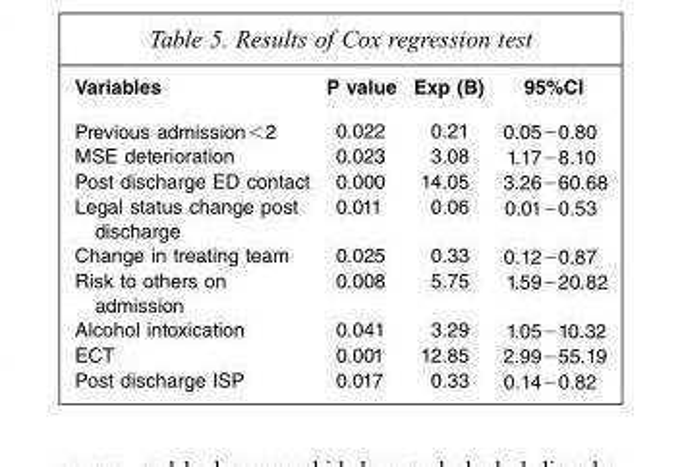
<table><thead><tr><td>Variables</td><td>P value</td><td>Exp (B)</td><td>95%CI</td></tr></thead><tbody><tr><td>Previous admission &lt; 2</td><td>0.022</td><td>0.21</td><td>0.05–0.80</td></tr><tr><td>MSE deterioration</td><td>0.023</td><td>3.08</td><td>1.17–8.10</td></tr><tr><td>Post discharge ED contact</td><td>0.000</td><td>14.05</td><td>3.26–60.68</td></tr><tr><td>Legal status change post discharge</td><td>0.011</td><td>0.06</td><td>0.01–0.53</td></tr><tr><td>Change in treating team</td><td>0.025</td><td>0.33</td><td>0.12–0.87</td></tr><tr><td>Risk to others on admission</td><td>0.008</td><td>5.75</td><td>1.59–20.82</td></tr><tr><td>Alcohol intoxication</td><td>0.041</td><td>3.29</td><td>1.05–10.32</td></tr><tr><td>ECT</td><td>0.001</td><td>12.85</td><td>2.99–55.19</td></tr><tr><td>Post discharge ISP</td><td>0.017</td><td>0.33</td><td>0.14–0.82</td></tr></tbody></table>